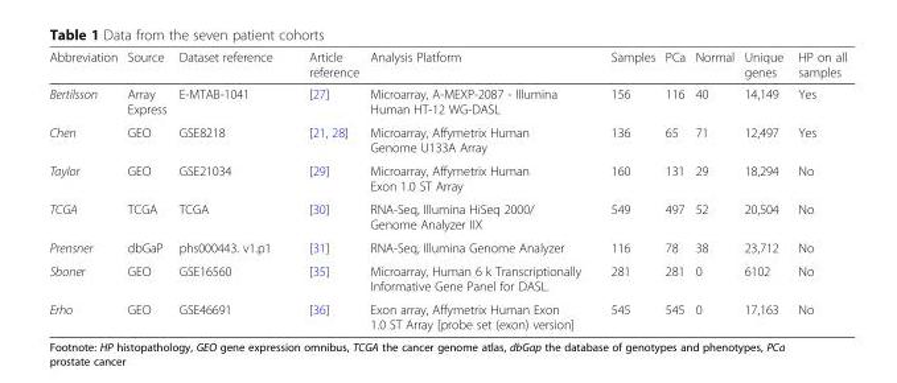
<table><thead><tr><td>Abbreviation</td><td>Source</td><td>Dataset reference</td><td>Article reference</td><td>Analysis Platform</td><td>Samples</td><td>PCa</td><td>Normal</td><td>Unique genes</td><td>HP on all samples</td></tr></thead><tbody><tr><td>Bertilsson</td><td>Array Express</td><td>E-MTAB-1041</td><td>[27]</td><td>Microarray, A-MEXP-2087 - Illumina Human HT-12 WG-DASL</td><td>156</td><td>116</td><td>40</td><td>14,149</td><td>Yes</td></tr><tr><td>Chen</td><td>GEO</td><td>GSE8218</td><td>[21, 28]</td><td>Microarray, Affymetrix Human Genome U133A Array</td><td>136</td><td>65</td><td>71</td><td>12,497</td><td>Yes</td></tr><tr><td>Taylor</td><td>GEO</td><td>GSE21034</td><td>[29]</td><td>Microarray, Affymetrix Human Exon 1.0 ST Array</td><td>160</td><td>131</td><td>29</td><td>18,294</td><td>No</td></tr><tr><td>TCGA</td><td>TCGA</td><td>TCGA</td><td>[30]</td><td>RNA-Seq, Illumina HiSeq 2000/ Genome Analyzer IIX</td><td>549</td><td>497</td><td>52</td><td>20,504</td><td>No</td></tr><tr><td>Prensner</td><td>dbGaP</td><td>phs000443. v1.p1</td><td>[31]</td><td>RNA-Seq, Illumina Genome Analyzer</td><td>116</td><td>78</td><td>38</td><td>23,712</td><td>No</td></tr><tr><td>Sboner</td><td>GEO</td><td>GSE16560</td><td>[35]</td><td>Microarray, Human 6 k Transcriptionally Informative Gene Panel for DASL.</td><td>281</td><td>281</td><td>0</td><td>6102</td><td>No</td></tr><tr><td>Erho</td><td>GEO</td><td>GSE46691</td><td>[36]</td><td>Exon array, Affymetrix Human Exon 1.0 ST Array [probe set (exon) version]</td><td>545</td><td>545</td><td>0</td><td>17,163</td><td>No</td></tr></tbody></table>